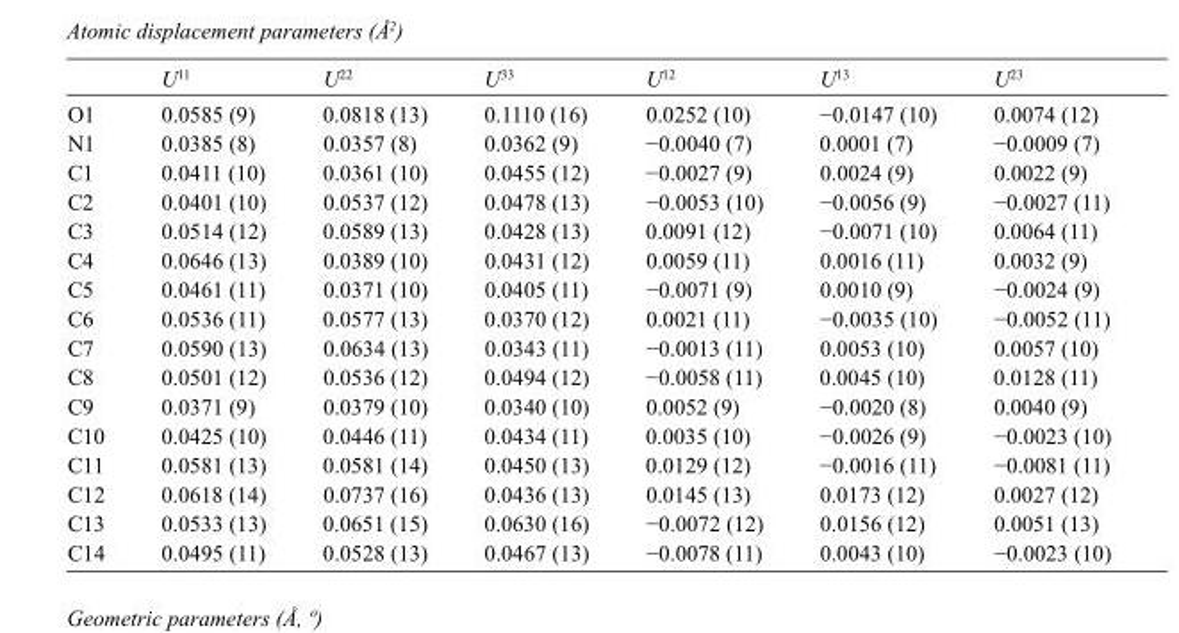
<table><thead><tr><td></td><td>U<sup>11</sup></td><td>U<sup>22</sup></td><td>U<sup>33</sup></td><td>U<sup>12</sup></td><td>U<sup>13</sup></td><td>U<sup>23</sup></td></tr></thead><tbody><tr><td>O1</td><td>0.0585 (9)</td><td>0.0818 (13)</td><td>0.1110 (16)</td><td>0.0252 (10)</td><td>−0.0147 (10)</td><td>0.0074 (12)</td></tr><tr><td>N1</td><td>0.0385 (8)</td><td>0.0357 (8)</td><td>0.0362 (9)</td><td>−0.0040 (7)</td><td>0.0001 (7)</td><td>−0.0009 (7)</td></tr><tr><td>C1</td><td>0.0411 (10)</td><td>0.0361 (10)</td><td>0.0455 (12)</td><td>−0.0027 (9)</td><td>0.0024 (9)</td><td>0.0022 (9)</td></tr><tr><td>C2</td><td>0.0401 (10)</td><td>0.0537 (12)</td><td>0.0478 (13)</td><td>−0.0053 (10)</td><td>−0.0056 (9)</td><td>−0.0027 (11)</td></tr><tr><td>C3</td><td>0.0514 (12)</td><td>0.0589 (13)</td><td>0.0428 (13)</td><td>0.0091 (12)</td><td>−0.0071 (10)</td><td>0.0064 (11)</td></tr><tr><td>C4</td><td>0.0646 (13)</td><td>0.0389 (10)</td><td>0.0431 (12)</td><td>0.0059 (11)</td><td>0.0016 (11)</td><td>0.0032 (9)</td></tr><tr><td>C5</td><td>0.0461 (11)</td><td>0.0371 (10)</td><td>0.0405 (11)</td><td>−0.0071 (9)</td><td>0.0010 (9)</td><td>−0.0024 (9)</td></tr><tr><td>C6</td><td>0.0536 (11)</td><td>0.0577 (13)</td><td>0.0370 (12)</td><td>0.0021 (11)</td><td>−0.0035 (10)</td><td>−0.0052 (11)</td></tr><tr><td>C7</td><td>0.0590 (13)</td><td>0.0634 (13)</td><td>0.0343 (11)</td><td>−0.0013 (11)</td><td>0.0053 (10)</td><td>0.0057 (10)</td></tr><tr><td>C8</td><td>0.0501 (12)</td><td>0.0536 (12)</td><td>0.0494 (12)</td><td>−0.0058 (11)</td><td>0.0045 (10)</td><td>0.0128 (11)</td></tr><tr><td>C9</td><td>0.0371 (9)</td><td>0.0379 (10)</td><td>0.0340 (10)</td><td>0.0052 (9)</td><td>−0.0020 (8)</td><td>0.0040 (9)</td></tr><tr><td>C10</td><td>0.0425 (10)</td><td>0.0446 (11)</td><td>0.0434 (11)</td><td>0.0035 (10)</td><td>−0.0026 (9)</td><td>−0.0023 (10)</td></tr><tr><td>C11</td><td>0.0581 (13)</td><td>0.0581 (14)</td><td>0.0450 (13)</td><td>0.0129 (12)</td><td>−0.0016 (11)</td><td>−0.0081 (11)</td></tr><tr><td>C12</td><td>0.0618 (14)</td><td>0.0737 (16)</td><td>0.0436 (13)</td><td>0.0145 (13)</td><td>0.0173 (12)</td><td>0.0027 (12)</td></tr><tr><td>C13</td><td>0.0533 (13)</td><td>0.0651 (15)</td><td>0.0630 (16)</td><td>−0.0072 (12)</td><td>0.0156 (12)</td><td>0.0051 (13)</td></tr><tr><td>C14</td><td>0.0495 (11)</td><td>0.0528 (13)</td><td>0.0467 (13)</td><td>−0.0078 (11)</td><td>0.0043 (10)</td><td>−0.0023 (10)</td></tr></tbody></table>